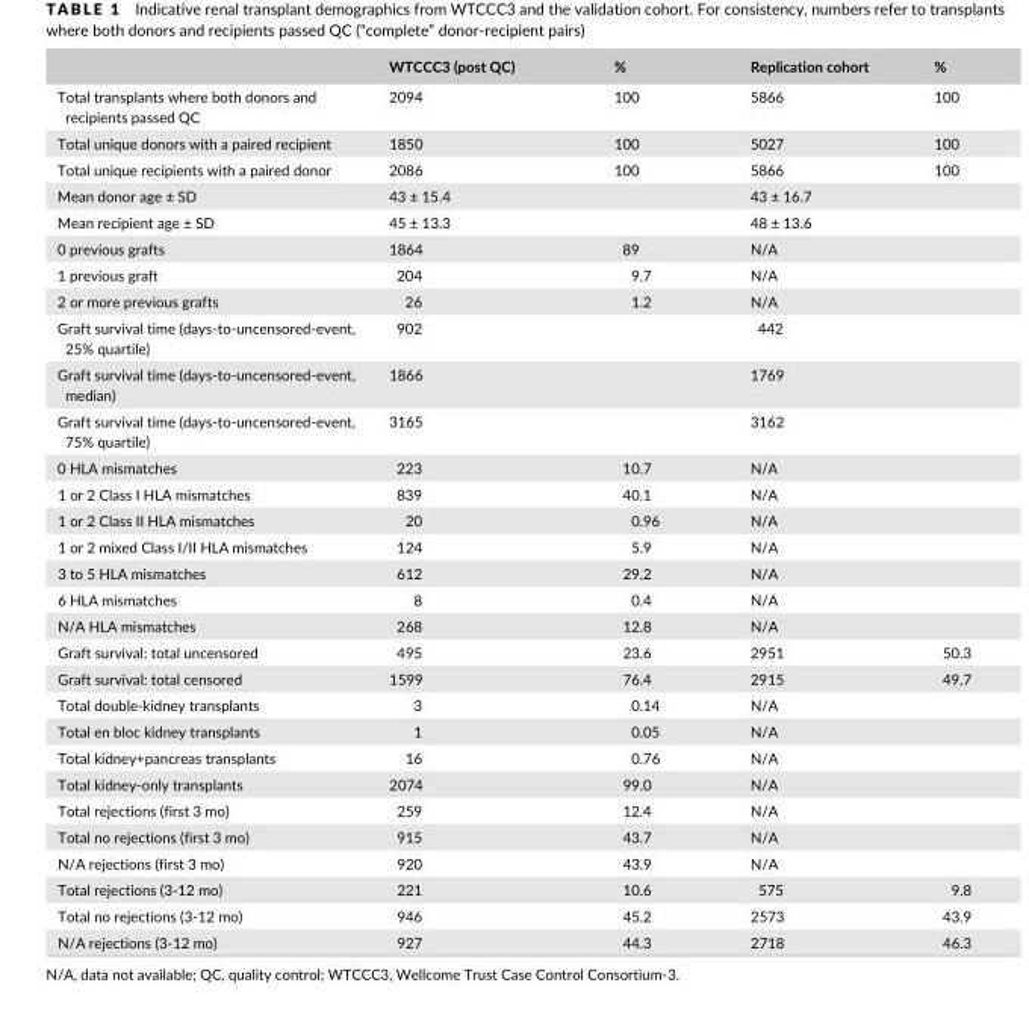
<table><thead><tr><td></td><td>WTCCC3 (post QC)</td><td>%</td><td>Replication cohort</td><td>%</td></tr></thead><tbody><tr><td>Total transplants where both donors and recipients passed QC</td><td>2094</td><td>100</td><td>5866</td><td>100</td></tr><tr><td>Total unique donors with a paired recipient</td><td>1850</td><td>100</td><td>5027</td><td>100</td></tr><tr><td>Total unique recipients with a paired donor</td><td>2086</td><td>100</td><td>5866</td><td>100</td></tr><tr><td>Mean donor age ± SD</td><td>43 ± 15.4</td><td></td><td>43 ± 16.7</td><td></td></tr><tr><td>Mean recipient age ± SD</td><td>45 ± 13.3</td><td></td><td>48 ± 13.6</td><td></td></tr><tr><td>0 previous grafts</td><td>1864</td><td>89</td><td>N/A</td><td></td></tr><tr><td>1 previous graft</td><td>204</td><td>9.7</td><td>N/A</td><td></td></tr><tr><td>2 or more previous grafts</td><td>26</td><td>1.2</td><td>N/A</td><td></td></tr><tr><td>Graft survival time (days- to- uncensored- event, 25% quartile)</td><td>902</td><td></td><td>442</td><td></td></tr><tr><td>Graft survival time (days- to- uncensored- event, median)</td><td>1866</td><td></td><td>1769</td><td></td></tr><tr><td>Graft survival time (days- to- uncensored- event, 75% quartile)</td><td>3165</td><td></td><td>3162</td><td></td></tr><tr><td>0 HLA mismatches</td><td>223</td><td>10.7</td><td>N/A</td><td></td></tr><tr><td>1 or 2 Class I HLA mismatches</td><td>839</td><td>40.1</td><td>N/A</td><td></td></tr><tr><td>1 or 2 Class II HLA mismatches</td><td>20</td><td>0.96</td><td>N/A</td><td></td></tr><tr><td>1 or 2 mixed Class I/II HLA mismatches</td><td>124</td><td>5.9</td><td>N/A</td><td></td></tr><tr><td>3 to 5 HLA mismatches</td><td>612</td><td>29.2</td><td>N/A</td><td></td></tr><tr><td>6 HLA mismatches</td><td>8</td><td>0.4</td><td>N/A</td><td></td></tr><tr><td>N/A HLA mismatches</td><td>268</td><td>12.8</td><td>N/A</td><td></td></tr><tr><td>Graft survival: total uncensored</td><td>495</td><td>23.6</td><td>2951</td><td>50.3</td></tr><tr><td>Graft survival: total censored</td><td>1599</td><td>76.4</td><td>2915</td><td>49.7</td></tr><tr><td>Total double- kidney transplants</td><td>3</td><td>0.14</td><td>N/A</td><td></td></tr><tr><td>Total en bloc kidney transplants</td><td>1</td><td>0.05</td><td>N/A</td><td></td></tr><tr><td>Total kidney+pancreas transplants</td><td>16</td><td>0.76</td><td>N/A</td><td></td></tr><tr><td>Total kidney- only transplants</td><td>2074</td><td>99.0</td><td>N/A</td><td></td></tr><tr><td>Total rejections (first 3 mo)</td><td>259</td><td>12.4</td><td>N/A</td><td></td></tr><tr><td>Total no rejections (first 3 mo)</td><td>915</td><td>43.7</td><td>N/A</td><td></td></tr><tr><td>N/A rejections (first 3 mo)</td><td>920</td><td>43.9</td><td>N/A</td><td></td></tr><tr><td>Total rejections (3- 12 mo)</td><td>221</td><td>10.6</td><td>575</td><td>9.8</td></tr><tr><td>Total no rejections (3- 12 mo)</td><td>946</td><td>45.2</td><td>2573</td><td>43.9</td></tr><tr><td>N/A rejections (3- 12 mo)</td><td>927</td><td>44.3</td><td>2718</td><td>46.3</td></tr></tbody></table>